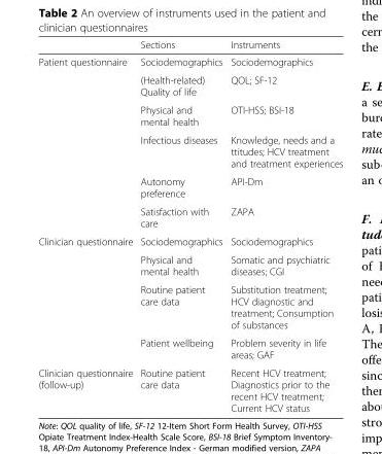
<table><thead><tr><td></td><td>Sections</td><td>Instruments</td></tr></thead><tbody><tr><td rowspan="6">Patient questionnaire</td><td>Sociodemographics</td><td>Sociodemographics</td></tr><tr><td>(Health-related) Quality of life</td><td>QOL; SF-12</td></tr><tr><td>Physical and mental health</td><td>OTI-HSS; BSI-18</td></tr><tr><td>Infectious diseases</td><td>Knowledge, needs and a ttitudes; HCV treatment and treatment experiences</td></tr><tr><td>Autonomy preference</td><td>API-Dm</td></tr><tr><td>Satisfaction with care</td><td>ZAPA</td></tr><tr><td rowspan="4">Clinician questionnaire</td><td>Sociodemographics</td><td>Sociodemographics</td></tr><tr><td>Physical and mental health</td><td>Somatic and psychiatric diseases; CGI</td></tr><tr><td>Routine patient care data</td><td>Substitution treatment; HCV diagnostic and treatment; Consumption of substances</td></tr><tr><td>Patient wellbeing</td><td>Problem severity in life areas; GAF</td></tr><tr><td>Clinician questionnaire (follow-up)</td><td>Routine patient care data</td><td>Recent HCV treatment; Diagnostics prior to the recent HCV treatment; Current HCV status</td></tr></tbody></table>